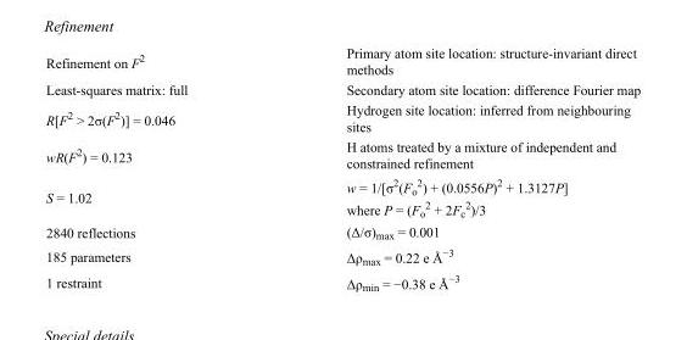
<table><tbody><tr><td>Refinement on F<sup>2</sup></td><td>Primary atom site location: structure-invariant direct methods</td></tr><tr><td>Least-squares matrix: full</td><td>Secondary atom site location: difference Fourier map</td></tr><tr><td>R[F<sup>2</sup> &gt; 2σ(F<sup>2</sup>)] = 0.046</td><td>Hydrogen site location: inferred from neighbouring sites</td></tr><tr><td>wR(F<sup>2</sup>) = 0.123</td><td>H atoms treated by a mixture of independent and constrained refinement</td></tr><tr><td>S = 1.02</td><td>w = 1/[σ<sup>2</sup>(F<sub>o</sub> <sup>2</sup>) + (0.0556P)<sup>2</sup> + 1.3127P] where P = (F<sub>o</sub> <sup>2</sup> + 2F<sub>c</sub> <sup>2</sup>)/3</td></tr><tr><td>2840 reflections</td><td>(Δ/σ)<sub>max</sub> = 0.001</td></tr><tr><td>185 parameters</td><td>Δρ<sub>max</sub> = 0.22 e Å<sup>−3</sup></td></tr><tr><td>1 restraint</td><td>Δρ<sub>min</sub> = −0.38 e Å<sup>−3</sup></td></tr></tbody></table>